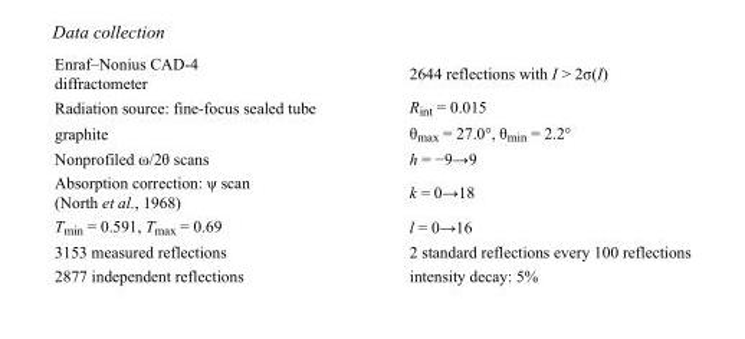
<table><tbody><tr><td>Enraf–Nonius CAD-4 diffractometer</td><td>2644 reflections with I &gt; 2σ(I)</td></tr><tr><td>Radiation source: fine-focus sealed tube</td><td>R<sub>int</sub> = 0.015</td></tr><tr><td>graphite</td><td>θ<sub>max</sub> = 27.0°, θ<sub>min</sub> = 2.2°</td></tr><tr><td>Nonprofiled ω/2θ scans</td><td>h = −9→9</td></tr><tr><td>Absorption correction: ψ scan (North et al., 1968)</td><td>k = 0→18</td></tr><tr><td>T<sub>min</sub> = 0.591, T<sub>max</sub> = 0.69</td><td>l = 0→16</td></tr><tr><td>3153 measured reflections</td><td>2 standard reflections every 100 reflections</td></tr><tr><td>2877 independent reflections</td><td>intensity decay: 5%</td></tr></tbody></table>